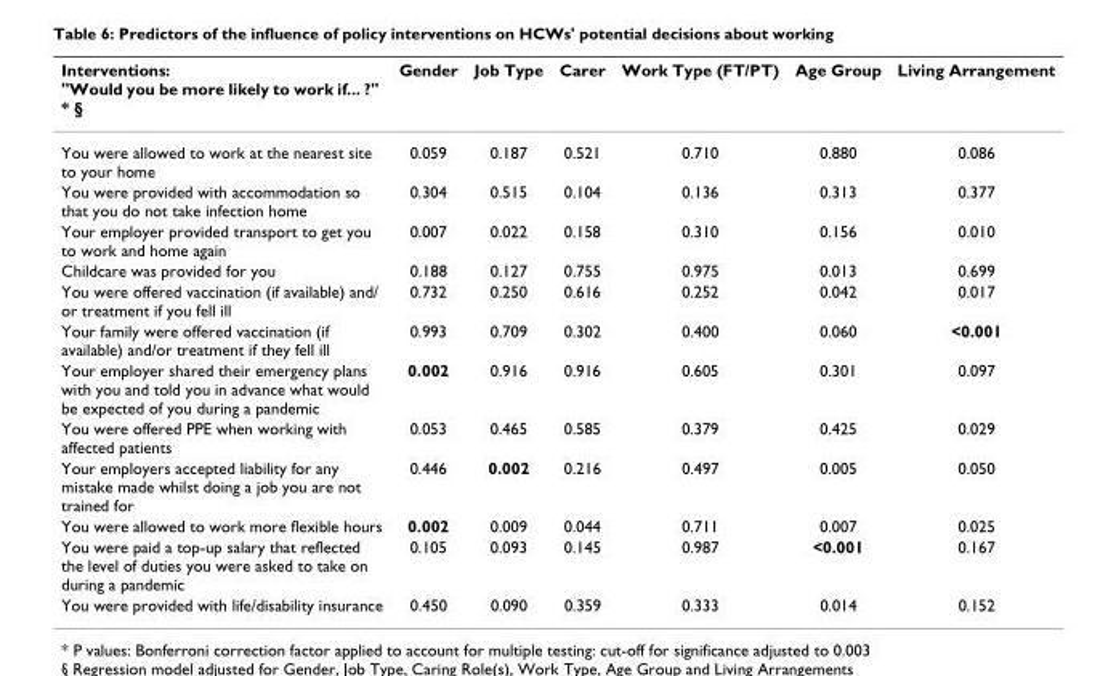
<table><thead><tr><td>Interventions: &quot;Would you be more likely to work if... ?&quot; * §</td><td>Gender</td><td>Job Type</td><td>Carer</td><td>Work Type (FT/PT)</td><td>Age Group</td><td>Living Arrangement</td></tr></thead><tbody><tr><td>You were allowed to work at the nearest site to your home</td><td>0.059</td><td>0.187</td><td>0.521</td><td>0.710</td><td>0.880</td><td>0.086</td></tr><tr><td>You were provided with accommodation so that you do not take infection home</td><td>0.304</td><td>0.515</td><td>0.104</td><td>0.136</td><td>0.313</td><td>0.377</td></tr><tr><td>Your employer provided transport to get you to work and home again</td><td>0.007</td><td>0.022</td><td>0.158</td><td>0.310</td><td>0.156</td><td>0.010</td></tr><tr><td>Childcare was provided for you</td><td>0.188</td><td>0.127</td><td>0.755</td><td>0.975</td><td>0.013</td><td>0.699</td></tr><tr><td>You were offered vaccination (if available) and/ or treatment if you fell ill</td><td>0.732</td><td>0.250</td><td>0.616</td><td>0.252</td><td>0.042</td><td>0.017</td></tr><tr><td>Your family were offered vaccination (if available) and/or treatment if they fell ill</td><td>0.993</td><td>0.709</td><td>0.302</td><td>0.400</td><td>0.060</td><td>&lt;0.001</td></tr><tr><td>Your employer shared their emergency plans with you and told you in advance what would be expected of you during a pandemic</td><td>0.002</td><td>0.916</td><td>0.916</td><td>0.605</td><td>0.301</td><td>0.097</td></tr><tr><td>You were offered PPE when working with affected patients</td><td>0.053</td><td>0.465</td><td>0.585</td><td>0.379</td><td>0.425</td><td>0.029</td></tr><tr><td>Your employers accepted liability for any mistake made whilst doing a job you are not trained for</td><td>0.446</td><td>0.002</td><td>0.216</td><td>0.497</td><td>0.005</td><td>0.050</td></tr><tr><td>You were allowed to work more flexible hours</td><td>0.002</td><td>0.009</td><td>0.044</td><td>0.711</td><td>0.007</td><td>0.025</td></tr><tr><td>You were paid a top-up salary that reflected the level of duties you were asked to take on during a pandemic</td><td>0.105</td><td>0.093</td><td>0.145</td><td>0.987</td><td>&lt;0.001</td><td>0.167</td></tr><tr><td>You were provided with life/disability insurance</td><td>0.450</td><td>0.090</td><td>0.359</td><td>0.333</td><td>0.014</td><td>0.152</td></tr></tbody></table>